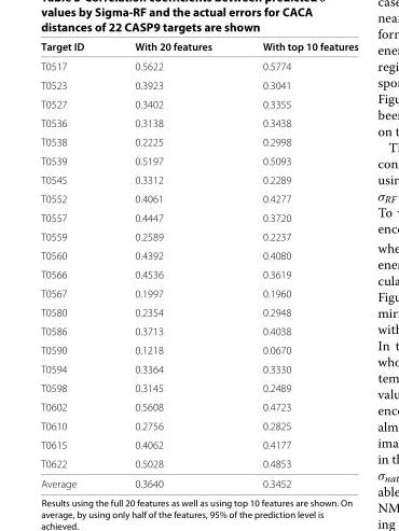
<table><thead><tr><td>Target ID</td><td>With 20 features</td><td>With top 10 features</td></tr></thead><tbody><tr><td>T0517</td><td>0.5622</td><td>0.5774</td></tr><tr><td>T0523</td><td>0.3923</td><td>0.3041</td></tr><tr><td>T0527</td><td>0.3402</td><td>0.3355</td></tr><tr><td>T0536</td><td>0.3138</td><td>0.3438</td></tr><tr><td>T0538</td><td>0.2225</td><td>0.2998</td></tr><tr><td>T0539</td><td>0.5197</td><td>0.5093</td></tr><tr><td>T0545</td><td>0.3312</td><td>0.2289</td></tr><tr><td>T0552</td><td>0.4061</td><td>0.4277</td></tr><tr><td>T0557</td><td>0.4447</td><td>0.3720</td></tr><tr><td>T0559</td><td>0.2589</td><td>0.2237</td></tr><tr><td>T0560</td><td>0.4392</td><td>0.4080</td></tr><tr><td>T0566</td><td>0.4536</td><td>0.3619</td></tr><tr><td>T0567</td><td>0.1997</td><td>0.1960</td></tr><tr><td>T0580</td><td>0.2354</td><td>0.2948</td></tr><tr><td>T0586</td><td>0.3713</td><td>0.4038</td></tr><tr><td>T0590</td><td>0.1218</td><td>0.0670</td></tr><tr><td>T0594</td><td>0.3364</td><td>0.3330</td></tr><tr><td>T0598</td><td>0.3145</td><td>0.2489</td></tr><tr><td>T0602</td><td>0.5608</td><td>0.4723</td></tr><tr><td>T0610</td><td>0.2756</td><td>0.2825</td></tr><tr><td>T0615</td><td>0.4062</td><td>0.4177</td></tr><tr><td>T0622</td><td>0.5028</td><td>0.4853</td></tr><tr><td>Average</td><td>0.3640</td><td>0.3452</td></tr></tbody></table>